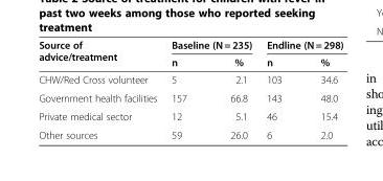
<table><thead><tr><td rowspan="2">Source of advice/treatment</td><td colspan="2">Baseline (N = 235)</td><td colspan="2">Endline (N = 298)</td></tr><tr><td>n</td><td>%</td><td>n</td><td>%</td></tr></thead><tbody><tr><td>CHW/Red Cross volunteer</td><td>5</td><td>2.1</td><td>103</td><td>34.6</td></tr><tr><td>Government health facilities</td><td>157</td><td>66.8</td><td>143</td><td>48.0</td></tr><tr><td>Private medical sector</td><td>12</td><td>5.1</td><td>46</td><td>15.4</td></tr><tr><td>Other sources</td><td>59</td><td>26.0</td><td>6</td><td>2.0</td></tr></tbody></table>